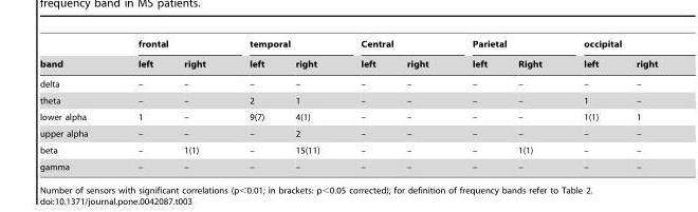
<table><thead><tr><td rowspan="2">band</td><td colspan="2">frontal</td><td colspan="2">temporal</td><td colspan="2">Central</td><td colspan="2">Parietal</td><td colspan="2">occipital</td></tr><tr><td>left</td><td>right</td><td>left</td><td>right</td><td>left</td><td>right</td><td>left</td><td>Right</td><td>left</td><td>right</td></tr></thead><tbody><tr><td>delta</td><td>–</td><td>–</td><td>–</td><td>–</td><td>–</td><td>–</td><td>–</td><td>–</td><td>–</td><td>–</td></tr><tr><td>theta</td><td>–</td><td>–</td><td>2</td><td>1</td><td>–</td><td>–</td><td>–</td><td>–</td><td>1</td><td>–</td></tr><tr><td>lower alpha</td><td>1</td><td>–</td><td>9(7)</td><td>4(1)</td><td>–</td><td>–</td><td>–</td><td>–</td><td>1(1)</td><td>1</td></tr><tr><td>upper alpha</td><td>–</td><td>–</td><td>–</td><td>2</td><td>–</td><td>–</td><td>–</td><td>–</td><td>–</td><td>–</td></tr><tr><td>beta</td><td>–</td><td>1(1)</td><td>–</td><td>15(11)</td><td>–</td><td>–</td><td>–</td><td>1(1)</td><td>–</td><td>–</td></tr><tr><td>gamma</td><td>–</td><td>–</td><td>–</td><td>–</td><td>–</td><td>–</td><td>–</td><td>–</td><td>–</td><td>–</td></tr></tbody></table>